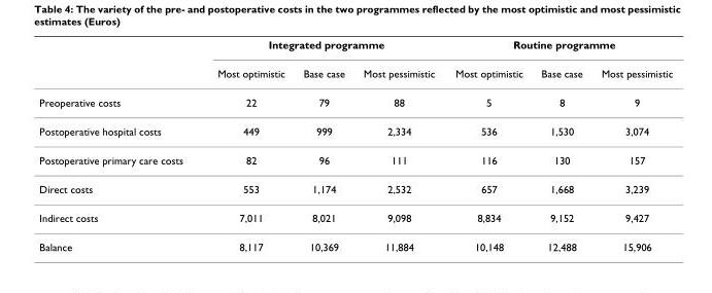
<table><thead><tr><td rowspan="2"></td><td colspan="3">Integrated programme</td><td colspan="3">Routine programme</td></tr><tr><td>Most optimistic</td><td>Base case</td><td>Most pessimistic</td><td>Most optimistic</td><td>Base case</td><td>Most pessimistic</td></tr></thead><tbody><tr><td>Preoperative costs</td><td>22</td><td>79</td><td>88</td><td>5</td><td>8</td><td>9</td></tr><tr><td>Postoperative hospital costs</td><td>449</td><td>999</td><td>2,334</td><td>536</td><td>1,530</td><td>3,074</td></tr><tr><td>Postoperative primary care costs</td><td>82</td><td>96</td><td>111</td><td>116</td><td>130</td><td>157</td></tr><tr><td>Direct costs</td><td>553</td><td>1,174</td><td>2,532</td><td>657</td><td>1,668</td><td>3,239</td></tr><tr><td>Indirect costs</td><td>7,011</td><td>8,021</td><td>9,098</td><td>8,834</td><td>9,152</td><td>9,427</td></tr><tr><td>Balance</td><td>8,117</td><td>10,369</td><td>11,884</td><td>10,148</td><td>12,488</td><td>15,906</td></tr></tbody></table>